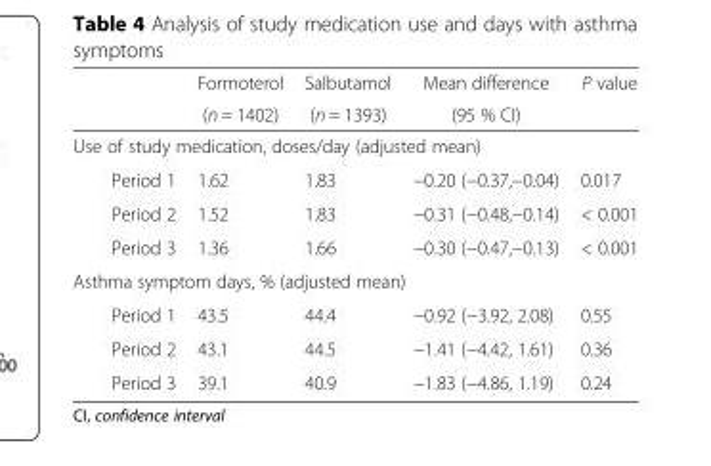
<table><thead><tr><td rowspan="2"></td><td rowspan="2">Formoterol (n = 1402)</td><td rowspan="2">Salbutamol (n = 1393)</td><td rowspan="2">Mean difference (95 % CI)</td><td rowspan="2">P value</td></tr><tr></tr></thead><tbody><tr><td colspan="5">Use of study medication, doses/day (adjusted mean)</td></tr><tr><td>Period 1</td><td>1.62</td><td>1.83</td><td>−0.20 (−0.37,−0.04)</td><td>0.017</td></tr><tr><td>Period 2</td><td>1.52</td><td>1.83</td><td>−0.31 (−0.48,−0.14)</td><td>&lt; 0.001</td></tr><tr><td>Period 3</td><td>1.36</td><td>1.66</td><td>−0.30 (−0.47,−0.13)</td><td>&lt; 0.001</td></tr><tr><td colspan="5">Asthma symptom days, % (adjusted mean)</td></tr><tr><td>Period 1</td><td>43.5</td><td>44.4</td><td>−0.92 (−3.92, 2.08)</td><td>0.55</td></tr><tr><td>Period 2</td><td>43.1</td><td>44.5</td><td>−1.41 (−4.42, 1.61)</td><td>0.36</td></tr><tr><td>Period 3</td><td>39.1</td><td>40.9</td><td>−1.83 (−4.86, 1.19)</td><td>0.24</td></tr></tbody></table>